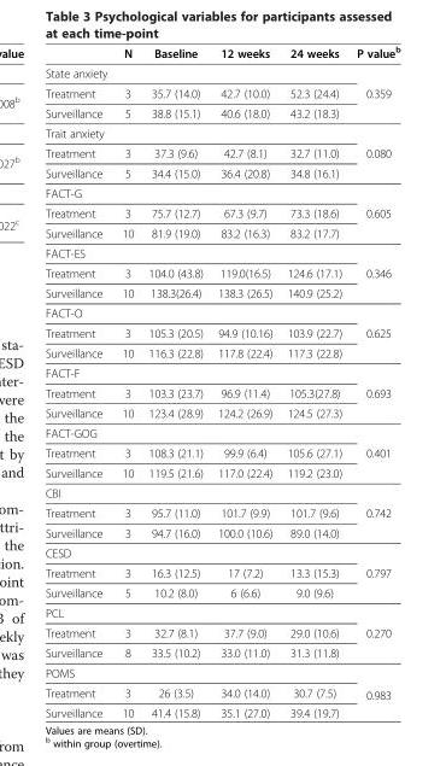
<table><thead><tr><td></td><td>N</td><td>Baseline</td><td>12 weeks</td><td>24 weeks</td><td>P value<sup>b</sup></td></tr></thead><tbody><tr><td colspan="5">State anxiety</td><td rowspan="3">0.359</td></tr><tr><td>Treatment</td><td>3</td><td>35.7 (14.0)</td><td>42.7 (10.0)</td><td>52.3 (24.4)</td></tr><tr><td>Surveillance</td><td>5</td><td>38.8 (15.1)</td><td>40.6 (18.0)</td><td>43.2 (18.3)</td></tr><tr><td colspan="5">Trait anxiety</td><td rowspan="3">0.080</td></tr><tr><td>Treatment</td><td>3</td><td>37.3 (9.6)</td><td>42.7 (8.1)</td><td>32.7 (11.0)</td></tr><tr><td>Surveillance</td><td>5</td><td>34.4 (15.0)</td><td>36.4 (20.8)</td><td>34.8 (16.1)</td></tr><tr><td colspan="5">FACT-G</td><td rowspan="3">0.605</td></tr><tr><td>Treatment</td><td>3</td><td>75.7 (12.7)</td><td>67.3 (9.7)</td><td>73.3 (18.6)</td></tr><tr><td>Surveillance</td><td>10</td><td>81.9 (19.0)</td><td>83.2 (16.3)</td><td>83.2 (17.7)</td></tr><tr><td colspan="5">FACT-ES</td><td rowspan="3">0.346</td></tr><tr><td>Treatment</td><td>3</td><td>104.0 (43.8)</td><td>119.0(16.5)</td><td>124.6 (17.1)</td></tr><tr><td>Surveillance</td><td>10</td><td>138.3(26.4)</td><td>138.3 (26.5)</td><td>140.9 (25.2)</td></tr><tr><td colspan="5">FACT-O</td><td rowspan="3">0.625</td></tr><tr><td>Treatment</td><td>3</td><td>105.3 (20.5)</td><td>94.9 (10.16)</td><td>103.9 (22.7)</td></tr><tr><td>Surveillance</td><td>10</td><td>116.3 (22.8)</td><td>117.8 (22.4)</td><td>117.3 (22.8)</td></tr><tr><td colspan="5">FACT-F</td><td rowspan="3">0.693</td></tr><tr><td>Treatment</td><td>3</td><td>103.3 (23.7)</td><td>96.9 (11.4)</td><td>105.3(27.8)</td></tr><tr><td>Surveillance</td><td>10</td><td>123.4 (28.9)</td><td>124.2 (26.9)</td><td>124.5 (27.3)</td></tr><tr><td colspan="5">FACT-GOG</td><td rowspan="3">0.401</td></tr><tr><td>Treatment</td><td>3</td><td>108.3 (21.1)</td><td>99.9 (6.4)</td><td>105.6 (27.1)</td></tr><tr><td>Surveillance</td><td>10</td><td>119.5 (21.6)</td><td>117.0 (22.4)</td><td>119.2 (23.0)</td></tr><tr><td colspan="5">CBI</td><td rowspan="3">0.742</td></tr><tr><td>Treatment</td><td>3</td><td>95.7 (11.0)</td><td>101.7 (9.9)</td><td>101.7 (9.6)</td></tr><tr><td>Surveillance</td><td>3</td><td>94.7 (16.0)</td><td>100.0 (10.6)</td><td>89.0 (14.0)</td></tr><tr><td colspan="5">CESD</td><td rowspan="3">0.797</td></tr><tr><td>Treatment</td><td>3</td><td>16.3 (12.5)</td><td>17 (7.2)</td><td>13.3 (15.3)</td></tr><tr><td>Surveillance</td><td>5</td><td>10.2 (8.0)</td><td>6 (6.6)</td><td>9.0 (9.6)</td></tr><tr><td colspan="5">PCL</td><td rowspan="3">0.270</td></tr><tr><td>Treatment</td><td>3</td><td>32.7 (8.1)</td><td>37.7 (9.0)</td><td>29.0 (10.6)</td></tr><tr><td>Surveillance</td><td>8</td><td>33.5 (10.2)</td><td>33.0 (11.0)</td><td>31.3 (11.8)</td></tr><tr><td colspan="5">POMS</td><td rowspan="3">0.983</td></tr><tr><td>Treatment</td><td>3</td><td>26 (3.5)</td><td>34.0 (14.0)</td><td>30.7 (7.5)</td></tr><tr><td>Surveillance</td><td>10</td><td>41.4 (15.8)</td><td>35.1 (27.0)</td><td>39.4 (19.7)</td></tr></tbody></table>